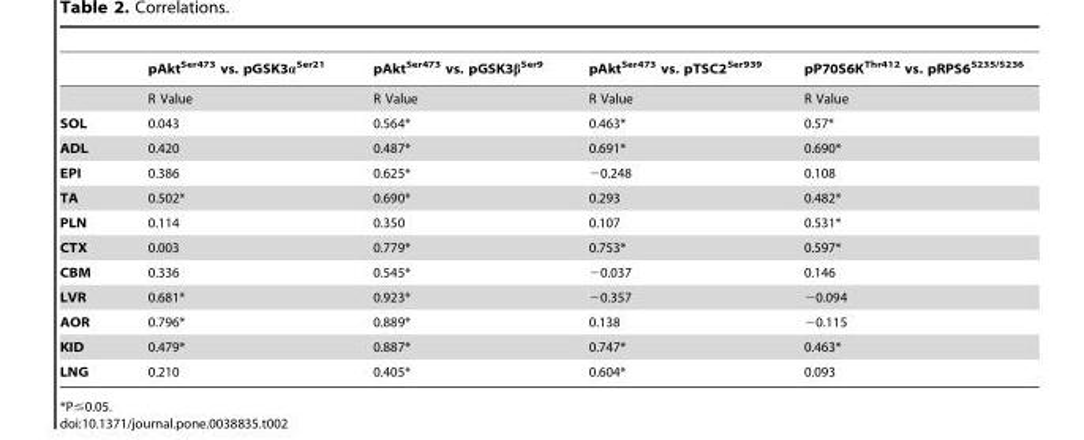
<table><thead><tr><td></td><td>pAkt<sup>Ser473</sup> vs. pGSK3α<sup>Ser21</sup></td><td>pAkt<sup>Ser473</sup> vs. pGSK3β<sup>Ser9</sup></td><td>pAkt<sup>Ser473</sup> vs. pTSC2<sup>Ser939</sup></td><td>pP70S6K<sup>Thr412</sup> vs. pRPS6<sup>S235/S236</sup></td></tr></thead><tbody><tr><td></td><td>R Value</td><td>R Value</td><td>R Value</td><td>R Value</td></tr><tr><td>SOL</td><td>0.043</td><td>0.564*</td><td>0.463*</td><td>0.57*</td></tr><tr><td>ADL</td><td>0.420</td><td>0.487*</td><td>0.691*</td><td>0.690*</td></tr><tr><td>EPI</td><td>0.386</td><td>0.625*</td><td>−0.248</td><td>0.108</td></tr><tr><td>TA</td><td>0.502*</td><td>0.690*</td><td>0.293</td><td>0.482*</td></tr><tr><td>PLN</td><td>0.114</td><td>0.350</td><td>0.107</td><td>0.531*</td></tr><tr><td>CTX</td><td>0.003</td><td>0.779*</td><td>0.753*</td><td>0.597*</td></tr><tr><td>CBM</td><td>0.336</td><td>0.545*</td><td>−0.037</td><td>0.146</td></tr><tr><td>LVR</td><td>0.681*</td><td>0.923*</td><td>−0.357</td><td>−0.094</td></tr><tr><td>AOR</td><td>0.796*</td><td>0.889*</td><td>0.138</td><td>−0.115</td></tr><tr><td>KID</td><td>0.479*</td><td>0.887*</td><td>0.747*</td><td>0.463*</td></tr><tr><td>LNG</td><td>0.210</td><td>0.405*</td><td>0.604*</td><td>0.093</td></tr></tbody></table>